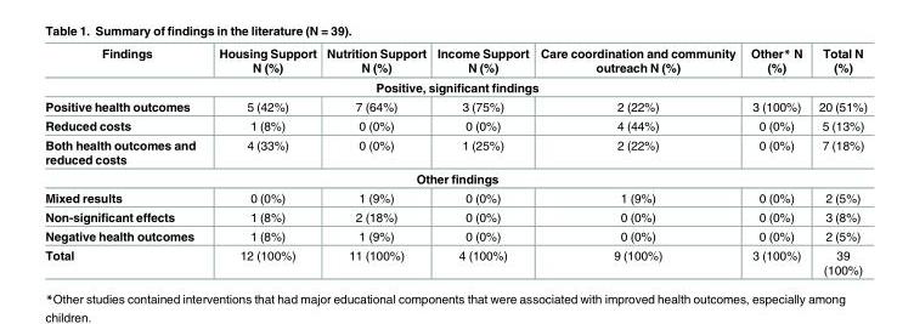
<table><thead><tr><td>Findings</td><td>Housing Support N (%)</td><td>Nutrition Support N (%)</td><td>Income Support N (%)</td><td>Care coordination and community outreach N (%)</td><td>Other* N (%)</td><td>Total N (%)</td></tr></thead><tbody><tr><td colspan="7">Positive, significant findings</td></tr><tr><td>Positive health outcomes</td><td>5 (42%)</td><td>7 (64%)</td><td>3 (75%)</td><td>2 (22%)</td><td>3 (100%)</td><td>20 (51%)</td></tr><tr><td>Reduced costs</td><td>1 (8%)</td><td>0 (0%)</td><td>0 (0%)</td><td>4 (44%)</td><td>0 (0%)</td><td>5 (13%)</td></tr><tr><td>Both health outcomes and reduced costs</td><td>4 (33%)</td><td>0 (0%)</td><td>1 (25%)</td><td>2 (22%)</td><td>0 (0%)</td><td>7 (18%)</td></tr><tr><td colspan="7">Other findings</td></tr><tr><td>Mixed results</td><td>0 (0%)</td><td>1 (9%)</td><td>0 (0%)</td><td>1 (9%)</td><td>0 (0%)</td><td>2 (5%)</td></tr><tr><td>Non-significant effects</td><td>1 (8%)</td><td>2 (18%)</td><td>0 (0%)</td><td>0 (0%)</td><td>0 (0%)</td><td>3 (8%)</td></tr><tr><td>Negative health outcomes</td><td>1 (8%)</td><td>1 (9%)</td><td>0 (0%)</td><td>0 (0%)</td><td>0 (0%)</td><td>2 (5%)</td></tr><tr><td>Total</td><td>12 (100%)</td><td>11 (100%)</td><td>4 (100%)</td><td>9 (100%)</td><td>3 (100%)</td><td>39 (100%)</td></tr></tbody></table>